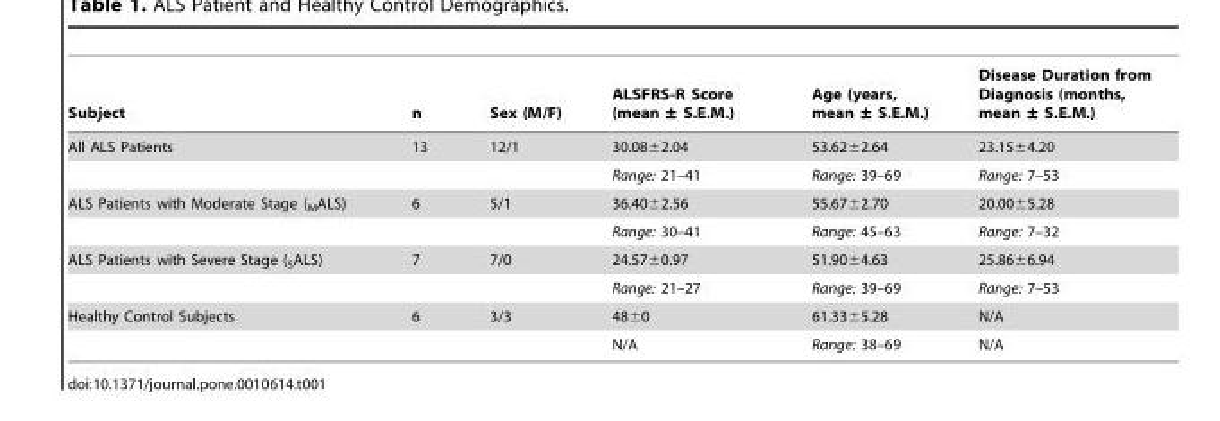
<table><thead><tr><td>Subject</td><td>n</td><td>Sex (M/F)</td><td>ALSFRS-R Score (mean ± S.E.M.)</td><td>Age (years, mean ± S.E.M.)</td><td>Disease Duration from Diagnosis (months, mean ± S.E.M.)</td></tr></thead><tbody><tr><td rowspan="2">All ALS Patients</td><td>13</td><td>12/1</td><td>30.08±2.04</td><td>53.62±2.64</td><td>23.15±4.20</td></tr><tr><td></td><td></td><td>Range: 21–41</td><td>Range: 39–69</td><td>Range: 7–53</td></tr><tr><td rowspan="2">ALS Patients with Moderate Stage (<sub>M</sub>ALS)</td><td>6</td><td>5/1</td><td>36.40±2.56</td><td>55.67±2.70</td><td>20.00±5.28</td></tr><tr><td></td><td></td><td>Range: 30–41</td><td>Range: 45–63</td><td>Range: 7–32</td></tr><tr><td rowspan="2">ALS Patients with Severe Stage (<sub>S</sub>ALS)</td><td>7</td><td>7/0</td><td>24.57±0.97</td><td>51.90±4.63</td><td>25.86±6.94</td></tr><tr><td></td><td></td><td>Range: 21–27</td><td>Range: 39–69</td><td>Range: 7–53</td></tr><tr><td rowspan="2">Healthy Control Subjects</td><td>6</td><td>3/3</td><td>48±0</td><td>61.33±5.28</td><td>N/A</td></tr><tr><td></td><td></td><td>N/A</td><td>Range: 38–69</td><td>N/A</td></tr></tbody></table>